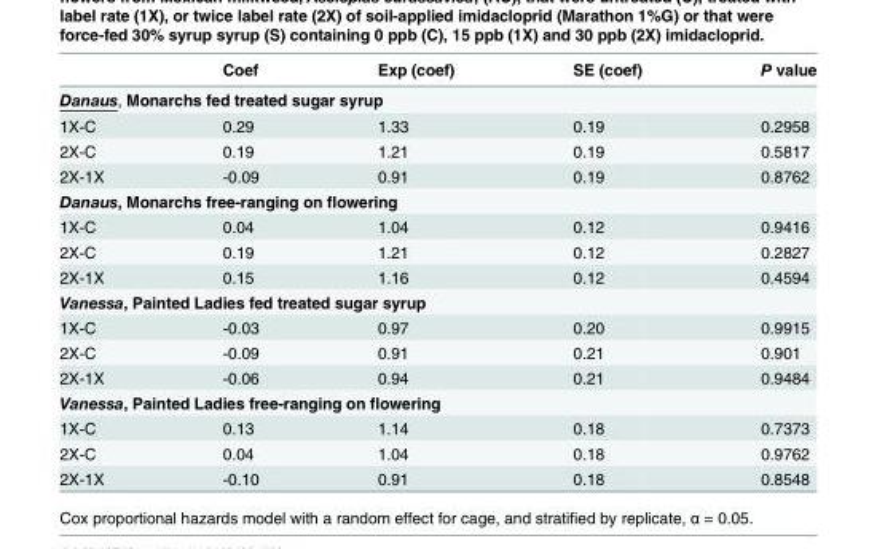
<table><thead><tr><td></td><td>Coef</td><td>Exp (coef)</td><td>SE (coef)</td><td>P value</td></tr></thead><tbody><tr><td colspan="5">Danaus, Monarchs fed treated sugar syrup</td></tr><tr><td>1X-C</td><td>0.29</td><td>1.33</td><td>0.19</td><td>0.2958</td></tr><tr><td>2X-C</td><td>0.19</td><td>1.21</td><td>0.19</td><td>0.5817</td></tr><tr><td>2X-1X</td><td>-0.09</td><td>0.91</td><td>0.19</td><td>0.8762</td></tr><tr><td colspan="5">Danaus, Monarchs free-ranging on flowering</td></tr><tr><td>1X-C</td><td>0.04</td><td>1.04</td><td>0.12</td><td>0.9416</td></tr><tr><td>2X-C</td><td>0.19</td><td>1.21</td><td>0.12</td><td>0.2827</td></tr><tr><td>2X-1X</td><td>0.15</td><td>1.16</td><td>0.12</td><td>0.4594</td></tr><tr><td colspan="5">Vanessa, Painted Ladies fed treated sugar syrup</td></tr><tr><td>1X-C</td><td>-0.03</td><td>0.97</td><td>0.20</td><td>0.9915</td></tr><tr><td>2X-C</td><td>-0.09</td><td>0.91</td><td>0.21</td><td>0.901</td></tr><tr><td>2X-1X</td><td>-0.06</td><td>0.94</td><td>0.21</td><td>0.9484</td></tr><tr><td colspan="5">Vanessa, Painted Ladies free-ranging on flowering</td></tr><tr><td>1X-C</td><td>0.13</td><td>1.14</td><td>0.18</td><td>0.7373</td></tr><tr><td>2X-C</td><td>0.04</td><td>1.04</td><td>0.18</td><td>0.9762</td></tr><tr><td>2X-1X</td><td>-0.10</td><td>0.91</td><td>0.18</td><td>0.8548</td></tr></tbody></table>